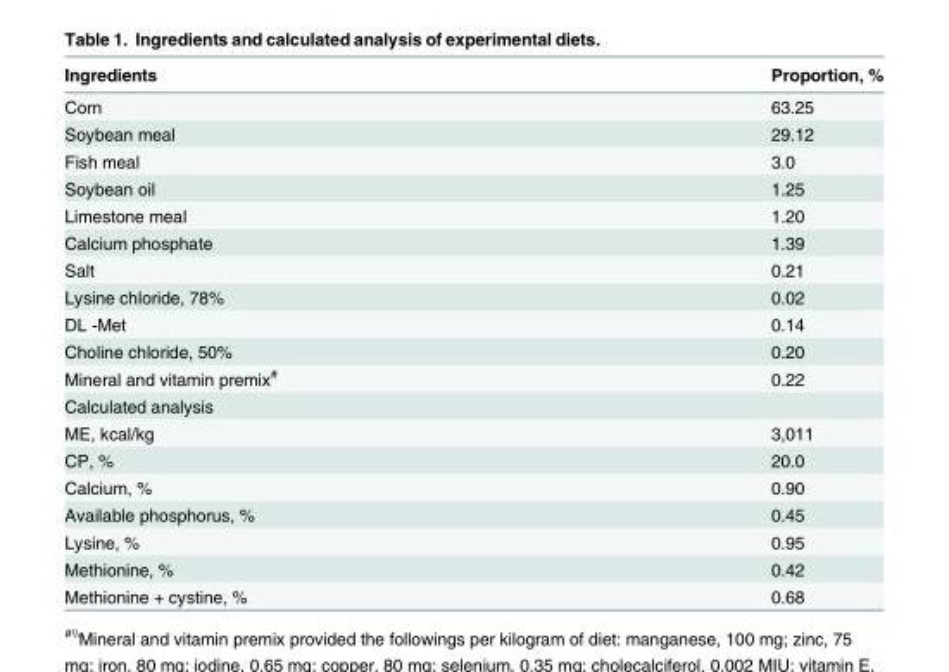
<table><thead><tr><td>Ingredients</td><td>Proportion, %</td></tr></thead><tbody><tr><td>Corn</td><td>63.25</td></tr><tr><td>Soybean meal</td><td>29.12</td></tr><tr><td>Fish meal</td><td>3.0</td></tr><tr><td>Soybean oil</td><td>1.25</td></tr><tr><td>Limestone meal</td><td>1.20</td></tr><tr><td>Calcium phosphate</td><td>1.39</td></tr><tr><td>Salt</td><td>0.21</td></tr><tr><td>Lysine chloride, 78%</td><td>0.02</td></tr><tr><td>DL -Met</td><td>0.14</td></tr><tr><td>Choline chloride, 50%</td><td>0.20</td></tr><tr><td>Mineral and vitamin premix<sup>#</sup></td><td>0.22</td></tr><tr><td colspan="2">Calculated analysis</td></tr><tr><td>ME, kcal/kg</td><td>3,011</td></tr><tr><td>CP, %</td><td>20.0</td></tr><tr><td>Calcium, %</td><td>0.90</td></tr><tr><td>Available phosphorus, %</td><td>0.45</td></tr><tr><td>Lysine, %</td><td>0.95</td></tr><tr><td>Methionine, %</td><td>0.42</td></tr><tr><td>Methionine + cystine, %</td><td>0.68</td></tr></tbody></table>